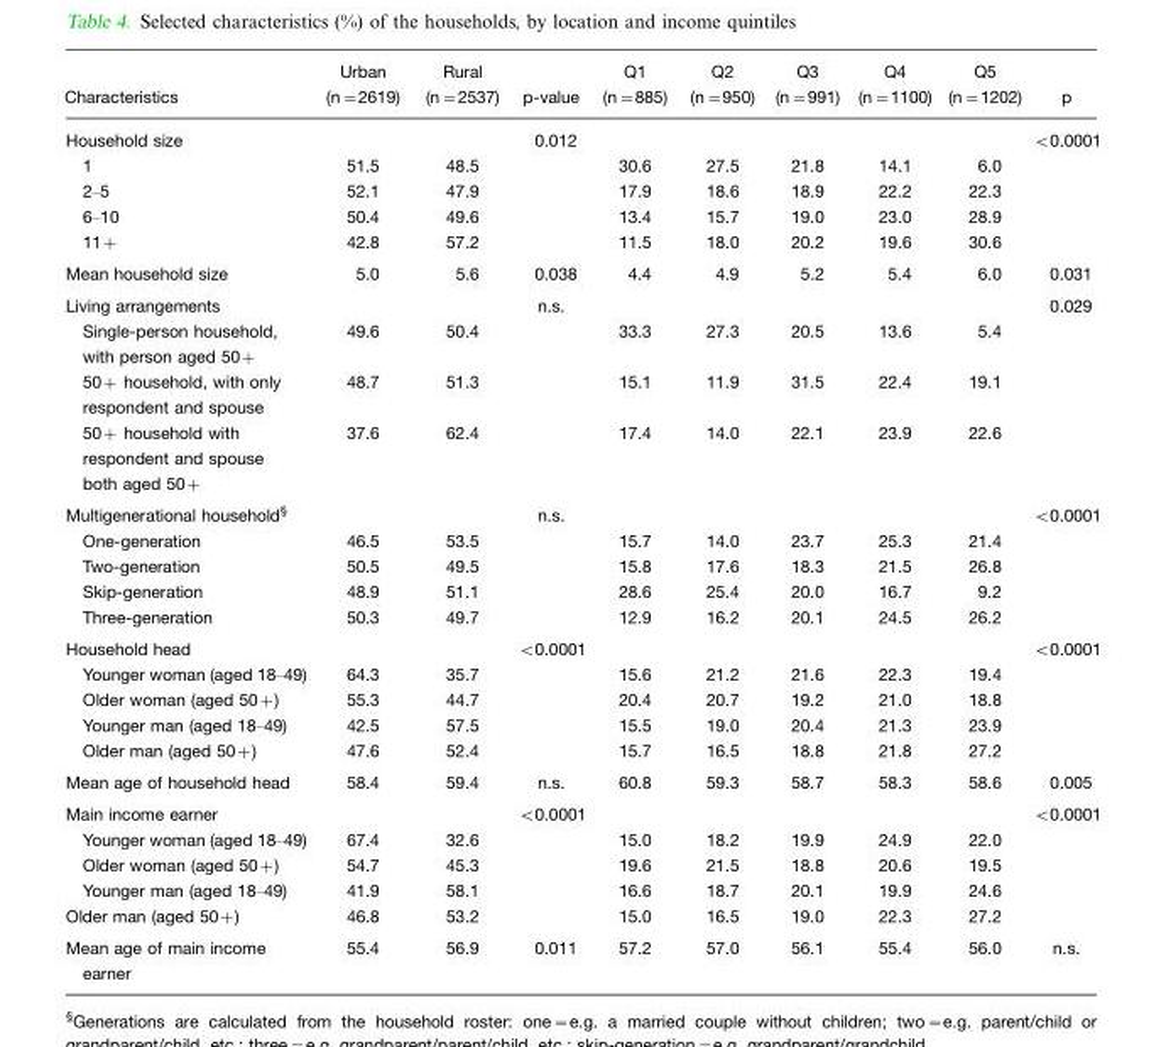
<table><thead><tr><td>Characteristics</td><td>Urban (n=2619)</td><td>Rural (n=2537)</td><td>p-value</td><td>Q1 (n=885)</td><td>Q2 (n=950)</td><td>Q3 (n=991)</td><td>Q4 (n=1100)</td><td>Q5 (n=1202)</td><td>p</td></tr></thead><tbody><tr><td>Household size</td><td></td><td></td><td>0.012</td><td></td><td></td><td></td><td></td><td></td><td>&lt;0.0001</td></tr><tr><td>1</td><td>51.5</td><td>48.5</td><td></td><td>30.6</td><td>27.5</td><td>21.8</td><td>14.1</td><td>6.0</td><td></td></tr><tr><td>2–5</td><td>52.1</td><td>47.9</td><td></td><td>17.9</td><td>18.6</td><td>18.9</td><td>22.2</td><td>22.3</td><td></td></tr><tr><td>6–10</td><td>50.4</td><td>49.6</td><td></td><td>13.4</td><td>15.7</td><td>19.0</td><td>23.0</td><td>28.9</td><td></td></tr><tr><td>11+</td><td>42.8</td><td>57.2</td><td></td><td>11.5</td><td>18.0</td><td>20.2</td><td>19.6</td><td>30.6</td><td></td></tr><tr><td>Mean household size</td><td>5.0</td><td>5.6</td><td>0.038</td><td>4.4</td><td>4.9</td><td>5.2</td><td>5.4</td><td>6.0</td><td>0.031</td></tr><tr><td>Living arrangements</td><td></td><td></td><td>n.s.</td><td></td><td></td><td></td><td></td><td></td><td>0.029</td></tr><tr><td>Single-person household, with person aged 50+</td><td>49.6</td><td>50.4</td><td></td><td>33.3</td><td>27.3</td><td>20.5</td><td>13.6</td><td>5.4</td><td></td></tr><tr><td>50+ household, with only respondent and spouse</td><td>48.7</td><td>51.3</td><td></td><td>15.1</td><td>11.9</td><td>31.5</td><td>22.4</td><td>19.1</td><td></td></tr><tr><td>50+ household with respondent and spouse both aged 50+</td><td>37.6</td><td>62.4</td><td></td><td>17.4</td><td>14.0</td><td>22.1</td><td>23.9</td><td>22.6</td><td></td></tr><tr><td>Multigenerational household§</td><td></td><td></td><td>n.s.</td><td></td><td></td><td></td><td></td><td></td><td>&lt;0.0001</td></tr><tr><td>One-generation</td><td>46.5</td><td>53.5</td><td></td><td>15.7</td><td>14.0</td><td>23.7</td><td>25.3</td><td>21.4</td><td></td></tr><tr><td>Two-generation</td><td>50.5</td><td>49.5</td><td></td><td>15.8</td><td>17.6</td><td>18.3</td><td>21.5</td><td>26.8</td><td></td></tr><tr><td>Skip-generation</td><td>48.9</td><td>51.1</td><td></td><td>28.6</td><td>25.4</td><td>20.0</td><td>16.7</td><td>9.2</td><td></td></tr><tr><td>Three-generation</td><td>50.3</td><td>49.7</td><td></td><td>12.9</td><td>16.2</td><td>20.1</td><td>24.5</td><td>26.2</td><td></td></tr><tr><td>Household head</td><td></td><td></td><td>&lt;0.0001</td><td></td><td></td><td></td><td></td><td></td><td>&lt;0.0001</td></tr><tr><td>Younger woman (aged 18–49)</td><td>64.3</td><td>35.7</td><td></td><td>15.6</td><td>21.2</td><td>21.6</td><td>22.3</td><td>19.4</td><td></td></tr><tr><td>Older woman (aged 50+)</td><td>55.3</td><td>44.7</td><td></td><td>20.4</td><td>20.7</td><td>19.2</td><td>21.0</td><td>18.8</td><td></td></tr><tr><td>Younger man (aged 18–49)</td><td>42.5</td><td>57.5</td><td></td><td>15.5</td><td>19.0</td><td>20.4</td><td>21.3</td><td>23.9</td><td></td></tr><tr><td>Older man (aged 50+)</td><td>47.6</td><td>52.4</td><td></td><td>15.7</td><td>16.5</td><td>18.8</td><td>21.8</td><td>27.2</td><td></td></tr><tr><td>Mean age of household head</td><td>58.4</td><td>59.4</td><td>n.s.</td><td>60.8</td><td>59.3</td><td>58.7</td><td>58.3</td><td>58.6</td><td>0.005</td></tr><tr><td>Main income earner</td><td></td><td></td><td>&lt;0.0001</td><td></td><td></td><td></td><td></td><td></td><td>&lt;0.0001</td></tr><tr><td>Younger woman (aged 18–49)</td><td>67.4</td><td>32.6</td><td></td><td>15.0</td><td>18.2</td><td>19.9</td><td>24.9</td><td>22.0</td><td></td></tr><tr><td>Older woman (aged 50+)</td><td>54.7</td><td>45.3</td><td></td><td>19.6</td><td>21.5</td><td>18.8</td><td>20.6</td><td>19.5</td><td></td></tr><tr><td>Younger man (aged 18–49)</td><td>41.9</td><td>58.1</td><td></td><td>16.6</td><td>18.7</td><td>20.1</td><td>19.9</td><td>24.6</td><td></td></tr><tr><td>Older man (aged 50+)</td><td>46.8</td><td>53.2</td><td></td><td>15.0</td><td>16.5</td><td>19.0</td><td>22.3</td><td>27.2</td><td></td></tr><tr><td>Mean age of main income earner</td><td>55.4</td><td>56.9</td><td>0.011</td><td>57.2</td><td>57.0</td><td>56.1</td><td>55.4</td><td>56.0</td><td>n.s.</td></tr></tbody></table>